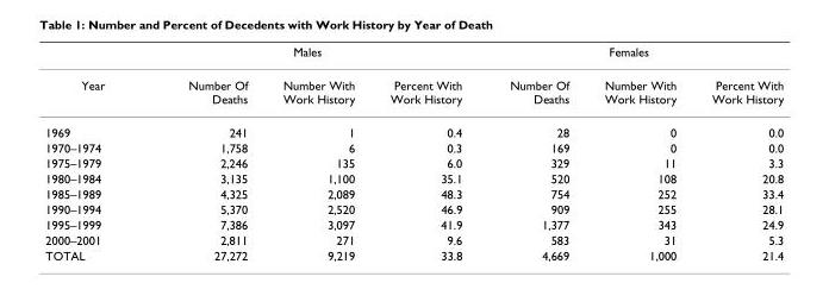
<table><thead><tr><td rowspan="2">Year</td><td colspan="3">Males</td><td colspan="3">Females</td></tr><tr><td>Number Of Deaths</td><td>Number With Work History</td><td>Percent With Work History</td><td>Number Of Deaths</td><td>Number With Work History</td><td>Percent With Work History</td></tr></thead><tbody><tr><td>1969</td><td>241</td><td>1</td><td>0.4</td><td>28</td><td>0</td><td>0.0</td></tr><tr><td>1970–1974</td><td>1,758</td><td>6</td><td>0.3</td><td>169</td><td>0</td><td>0.0</td></tr><tr><td>1975–1979</td><td>2,246</td><td>135</td><td>6.0</td><td>329</td><td>11</td><td>3.3</td></tr><tr><td>1980–1984</td><td>3,135</td><td>1,100</td><td>35.1</td><td>520</td><td>108</td><td>20.8</td></tr><tr><td>1985–1989</td><td>4,325</td><td>2,089</td><td>48.3</td><td>754</td><td>252</td><td>33.4</td></tr><tr><td>1990–1994</td><td>5,370</td><td>2,520</td><td>46.9</td><td>909</td><td>255</td><td>28.1</td></tr><tr><td>1995–1999</td><td>7,386</td><td>3,097</td><td>41.9</td><td>1,377</td><td>343</td><td>24.9</td></tr><tr><td>2000–2001</td><td>2,811</td><td>271</td><td>9.6</td><td>583</td><td>31</td><td>5.3</td></tr><tr><td>TOTAL</td><td>27,272</td><td>9,219</td><td>33.8</td><td>4,669</td><td>1,000</td><td>21.4</td></tr></tbody></table>